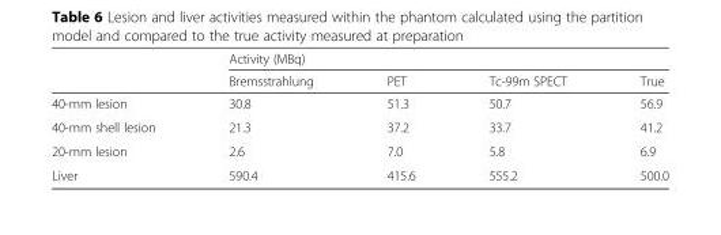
<table><thead><tr><td rowspan="2"></td><td colspan="4">Activity (MBq)</td></tr><tr><td>Bremsstrahlung</td><td>PET</td><td>Tc-99m SPECT</td><td>True</td></tr></thead><tbody><tr><td>40-mm lesion</td><td>30.8</td><td>51.3</td><td>50.7</td><td>56.9</td></tr><tr><td>40-mm shell lesion</td><td>21.3</td><td>37.2</td><td>33.7</td><td>41.2</td></tr><tr><td>20-mm lesion</td><td>2.6</td><td>7.0</td><td>5.8</td><td>6.9</td></tr><tr><td>Liver</td><td>590.4</td><td>415.6</td><td>555.2</td><td>500.0</td></tr></tbody></table>